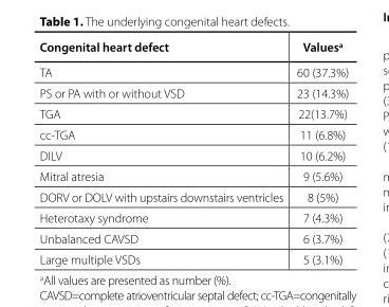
<table><thead><tr><td>Congenital heart defect</td><td>Values<sup>a</sup></td></tr></thead><tbody><tr><td>TA</td><td>60 (37.3%)</td></tr><tr><td>PS or PA with or without VSD</td><td>23 (14.3%)</td></tr><tr><td>TGA</td><td>22(13.7%)</td></tr><tr><td>cc-TGA</td><td>11 (6.8%)</td></tr><tr><td>DILV</td><td>10 (6.2%)</td></tr><tr><td>Mitral atresia</td><td>9 (5.6%)</td></tr><tr><td>DORV or DOLV with upstairs downstairs ventricles</td><td>8 (5%)</td></tr><tr><td>Heterotaxy syndrome</td><td>7 (4.3%)</td></tr><tr><td>Unbalanced CAVSD</td><td>6 (3.7%)</td></tr><tr><td>Large multiple VSDs</td><td>5 (3.1%)</td></tr></tbody></table>